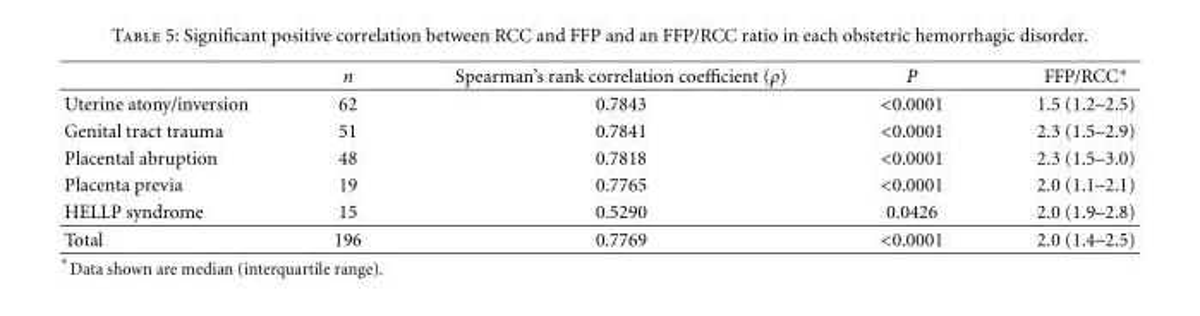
<table><thead><tr><td></td><td>n</td><td>Spearman’s rank correlation coefficient (ρ)</td><td>P</td><td>FFP/RCC∗</td></tr></thead><tbody><tr><td>Uterine atony/inversion</td><td>62</td><td>0.7843</td><td>&lt;0.0001</td><td>1.5 (1.2–2.5)</td></tr><tr><td>Genital tract trauma</td><td>51</td><td>0.7841</td><td>&lt;0.0001</td><td>2.3 (1.5–2.9)</td></tr><tr><td>Placental abruption</td><td>48</td><td>0.7818</td><td>&lt;0.0001</td><td>2.3 (1.5–3.0)</td></tr><tr><td>Placenta previa</td><td>19</td><td>0.7765</td><td>&lt;0.0001</td><td>2.0 (1.1–2.1)</td></tr><tr><td>HELLP syndrome</td><td>15</td><td>0.5290</td><td>0.0426</td><td>2.0 (1.9–2.8)</td></tr><tr><td>Total</td><td>196</td><td>0.7769</td><td>&lt;0.0001</td><td>2.0 (1.4–2.5)</td></tr></tbody></table>